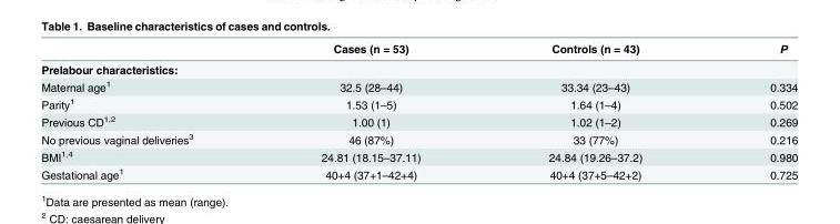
<table><thead><tr><td></td><td>Cases (n = 53)</td><td>Controls (n = 43)</td><td>P</td></tr></thead><tbody><tr><td colspan="4">Prelabour characteristics:</td></tr><tr><td>Maternal age<sup>1</sup></td><td>32.5 (28–44)</td><td>33.34 (23–43)</td><td>0.334</td></tr><tr><td>Parity<sup>1</sup></td><td>1.53 (1–5)</td><td>1.64 (1–4)</td><td>0.502</td></tr><tr><td>Previous CD<sup>1,2</sup></td><td>1.00 (1)</td><td>1.02 (1–2)</td><td>0.269</td></tr><tr><td>No previous vaginal deliveries<sup>3</sup></td><td>46 (87%)</td><td>33 (77%)</td><td>0.216</td></tr><tr><td>BMI<sup>1,4</sup></td><td>24.81 (18.15–37.11)</td><td>24.84 (19.26–37.2)</td><td>0.980</td></tr><tr><td>Gestational age<sup>1</sup></td><td>40+4 (37+1–42+4)</td><td>40+4 (37+5–42+2)</td><td>0.725</td></tr></tbody></table>